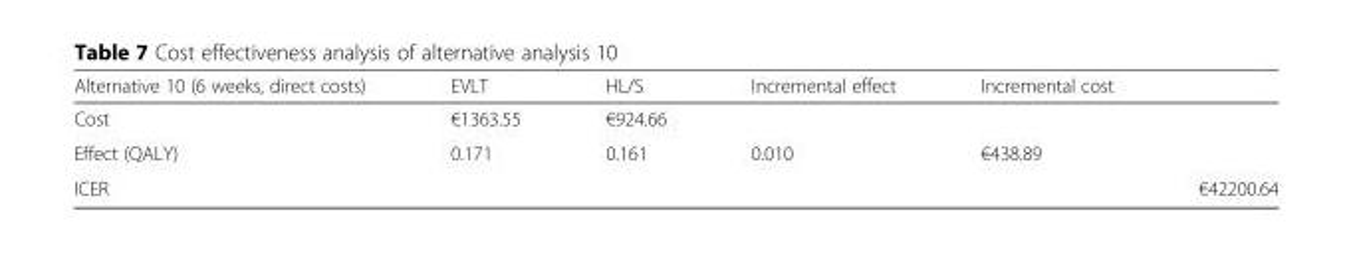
<table><thead><tr><td>Alternative 10 (6 weeks, direct costs)</td><td>EVLT</td><td>HL/S</td><td>Incremental effect</td><td>Incremental cost</td><td></td></tr></thead><tbody><tr><td>Cost</td><td>€1363.55</td><td>€924.66</td><td></td><td></td><td></td></tr><tr><td>Effect (QALY)</td><td>0.171</td><td>0.161</td><td>0.010</td><td>€438.89</td><td></td></tr><tr><td>ICER</td><td></td><td></td><td></td><td></td><td>€42200.64</td></tr></tbody></table>